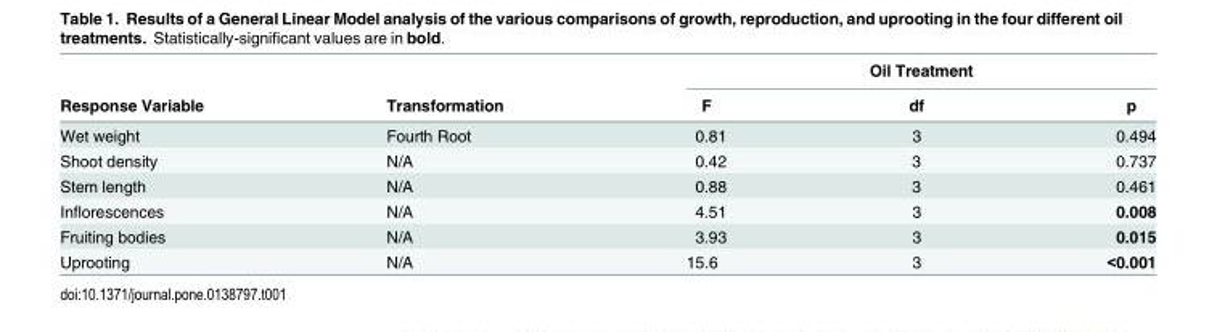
<table><thead><tr><td rowspan="2">Response Variable</td><td rowspan="2">Transformation</td><td colspan="3">Oil Treatment</td></tr><tr><td>F</td><td>df</td><td>p</td></tr></thead><tbody><tr><td>Wet weight</td><td>Fourth Root</td><td>0.81</td><td>3</td><td>0.494</td></tr><tr><td>Shoot density</td><td>N/A</td><td>0.42</td><td>3</td><td>0.737</td></tr><tr><td>Stem length</td><td>N/A</td><td>0.88</td><td>3</td><td>0.461</td></tr><tr><td>Inflorescences</td><td>N/A</td><td>4.51</td><td>3</td><td>0.008</td></tr><tr><td>Fruiting bodies</td><td>N/A</td><td>3.93</td><td>3</td><td>0.015</td></tr><tr><td>Uprooting</td><td>N/A</td><td>15.6</td><td>3</td><td>&lt;0.001</td></tr></tbody></table>